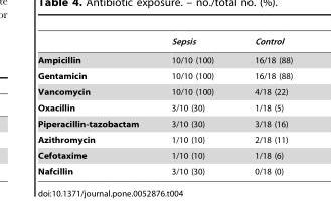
<table><thead><tr><td></td><td>Sepsis</td><td>Control</td></tr></thead><tbody><tr><td>Ampicillin</td><td>10/10 (100)</td><td>16/18 (88)</td></tr><tr><td>Gentamicin</td><td>10/10 (100)</td><td>16/18 (88)</td></tr><tr><td>Vancomycin</td><td>10/10 (100)</td><td>4/18 (22)</td></tr><tr><td>Oxacillin</td><td>3/10 (30)</td><td>1/18 (5)</td></tr><tr><td>Piperacillin-tazobactam</td><td>3/10 (30)</td><td>3/18 (16)</td></tr><tr><td>Azithromycin</td><td>1/10 (10)</td><td>2/18 (11)</td></tr><tr><td>Cefotaxime</td><td>1/10 (10)</td><td>1/18 (6)</td></tr><tr><td>Nafcillin</td><td>3/10 (30)</td><td>0/18 (0)</td></tr></tbody></table>